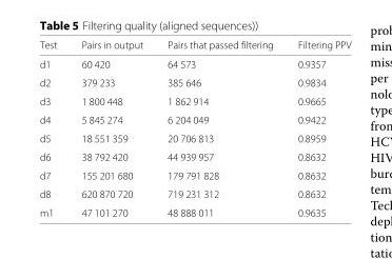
<table><thead><tr><td>Test</td><td>Pairs in output</td><td>Pairs that passed filtering</td><td>Filtering PPV</td></tr></thead><tbody><tr><td>d1</td><td>60 420</td><td>64 573</td><td>0.9357</td></tr><tr><td>d2</td><td>379 233</td><td>385 646</td><td>0.9834</td></tr><tr><td>d3</td><td>1 800 448</td><td>1 862 914</td><td>0.9665</td></tr><tr><td>d4</td><td>5 845 274</td><td>6 204 049</td><td>0.9422</td></tr><tr><td>d5</td><td>18 551 359</td><td>20 706 813</td><td>0.8959</td></tr><tr><td>d6</td><td>38 792 420</td><td>44 939 957</td><td>0.8632</td></tr><tr><td>d7</td><td>155 201 680</td><td>179 791 828</td><td>0.8632</td></tr><tr><td>d8</td><td>620 870 720</td><td>719 231 312</td><td>0.8632</td></tr><tr><td>m1</td><td>47 101 270</td><td>48 888 011</td><td>0.9635</td></tr></tbody></table>